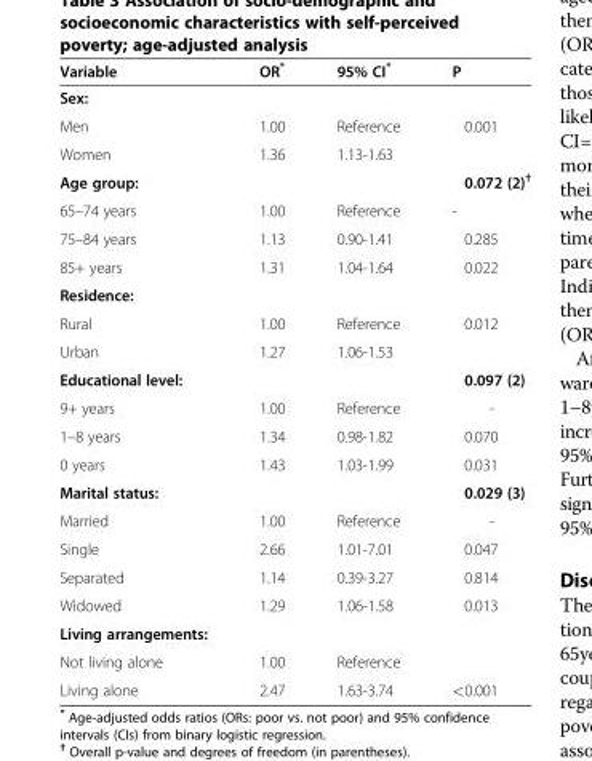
<table><thead><tr><td>Variable</td><td>OR*</td><td>95% CI*</td><td>P</td></tr></thead><tbody><tr><td colspan="4">Sex:</td></tr><tr><td>Men</td><td>1.00</td><td>Reference</td><td>0.001</td></tr><tr><td>Women</td><td>1.36</td><td>1.13-1.63</td><td></td></tr><tr><td>Age group:</td><td></td><td></td><td>0.072 (2)<sup>†</sup></td></tr><tr><td>65–74 years</td><td>1.00</td><td>Reference</td><td>-</td></tr><tr><td>75–84 years</td><td>1.13</td><td>0.90-1.41</td><td>0.285</td></tr><tr><td>85+ years</td><td>1.31</td><td>1.04-1.64</td><td>0.022</td></tr><tr><td colspan="4">Residence:</td></tr><tr><td>Rural</td><td>1.00</td><td>Reference</td><td>0.012</td></tr><tr><td>Urban</td><td>1.27</td><td>1.06-1.53</td><td></td></tr><tr><td>Educational level:</td><td></td><td></td><td>0.097 (2)</td></tr><tr><td>9+ years</td><td>1.00</td><td>Reference</td><td>-</td></tr><tr><td>1–8 years</td><td>1.34</td><td>0.98-1.82</td><td>0.070</td></tr><tr><td>0 years</td><td>1.43</td><td>1.03-1.99</td><td>0.031</td></tr><tr><td>Marital status:</td><td></td><td></td><td>0.029 (3)</td></tr><tr><td>Married</td><td>1.00</td><td>Reference</td><td>-</td></tr><tr><td>Single</td><td>2.66</td><td>1.01-7.01</td><td>0.047</td></tr><tr><td>Separated</td><td>1.14</td><td>0.39-3.27</td><td>0.814</td></tr><tr><td>Widowed</td><td>1.29</td><td>1.06-1.58</td><td>0.013</td></tr><tr><td colspan="4">Living arrangements:</td></tr><tr><td>Not living alone</td><td>1.00</td><td>Reference</td><td></td></tr><tr><td>Living alone</td><td>2.47</td><td>1.63-3.74</td><td>&lt;0.001</td></tr></tbody></table>